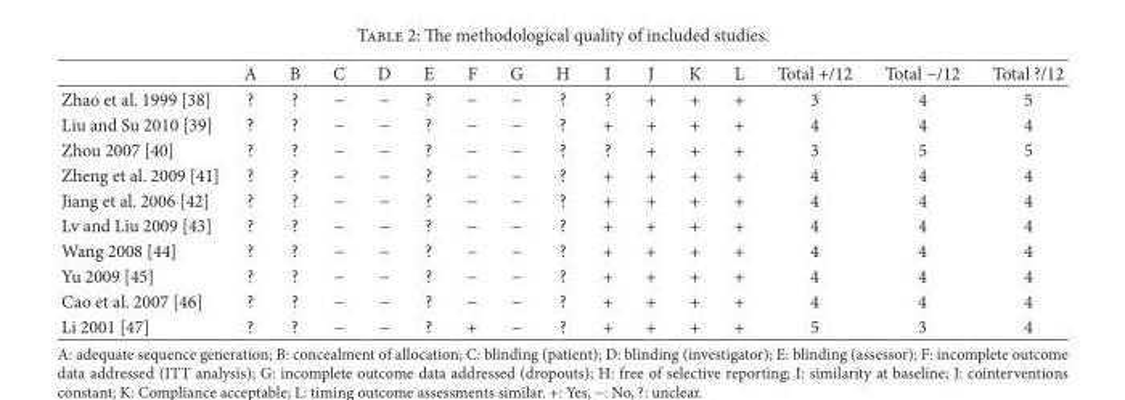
<table><thead><tr><td></td><td>A</td><td>B</td><td>C</td><td>D</td><td>E</td><td>F</td><td>G</td><td>H</td><td>I</td><td>J</td><td>K</td><td>L</td><td>Total +/12</td><td>Total −/12</td><td>Total ?/12</td></tr></thead><tbody><tr><td>Zhao et al. 1999 [38]</td><td>?</td><td>?</td><td>−</td><td>−</td><td>?</td><td>−</td><td>−</td><td>?</td><td>?</td><td>+</td><td>+</td><td>+</td><td>3</td><td>4</td><td>5</td></tr><tr><td>Liu and Su 2010 [39]</td><td>?</td><td>?</td><td>−</td><td>−</td><td>?</td><td>−</td><td>−</td><td>?</td><td>+</td><td>+</td><td>+</td><td>+</td><td>4</td><td>4</td><td>4</td></tr><tr><td>Zhou 2007 [40]</td><td>?</td><td>?</td><td>−</td><td>−</td><td>?</td><td>−</td><td>−</td><td>?</td><td>?</td><td>+</td><td>+</td><td>+</td><td>3</td><td>5</td><td>5</td></tr><tr><td>Zheng et al. 2009 [41]</td><td>?</td><td>?</td><td>−</td><td>−</td><td>?</td><td>−</td><td>−</td><td>?</td><td>+</td><td>+</td><td>+</td><td>+</td><td>4</td><td>4</td><td>4</td></tr><tr><td>Jiang et al. 2006 [42]</td><td>?</td><td>?</td><td>−</td><td>−</td><td>?</td><td>−</td><td>−</td><td>?</td><td>+</td><td>+</td><td>+</td><td>+</td><td>4</td><td>4</td><td>4</td></tr><tr><td>Lv and Liu 2009 [43]</td><td>?</td><td>?</td><td>−</td><td>−</td><td>?</td><td>−</td><td>−</td><td>?</td><td>+</td><td>+</td><td>+</td><td>+</td><td>4</td><td>4</td><td>4</td></tr><tr><td>Wang 2008 [44]</td><td>?</td><td>?</td><td>−</td><td>−</td><td>?</td><td>−</td><td>−</td><td>?</td><td>+</td><td>+</td><td>+</td><td>+</td><td>4</td><td>4</td><td>4</td></tr><tr><td>Yu 2009 [45]</td><td>?</td><td>?</td><td>−</td><td>−</td><td>?</td><td>−</td><td>−</td><td>?</td><td>+</td><td>+</td><td>+</td><td>+</td><td>4</td><td>4</td><td>4</td></tr><tr><td>Cao et al. 2007 [46]</td><td>?</td><td>?</td><td>−</td><td>−</td><td>?</td><td>−</td><td>−</td><td>?</td><td>+</td><td>+</td><td>+</td><td>+</td><td>4</td><td>4</td><td>4</td></tr><tr><td>Li 2001 [47]</td><td>?</td><td>?</td><td>−</td><td>−</td><td>?</td><td>+</td><td>−</td><td>?</td><td>+</td><td>+</td><td>+</td><td>+</td><td>5</td><td>3</td><td>4</td></tr></tbody></table>